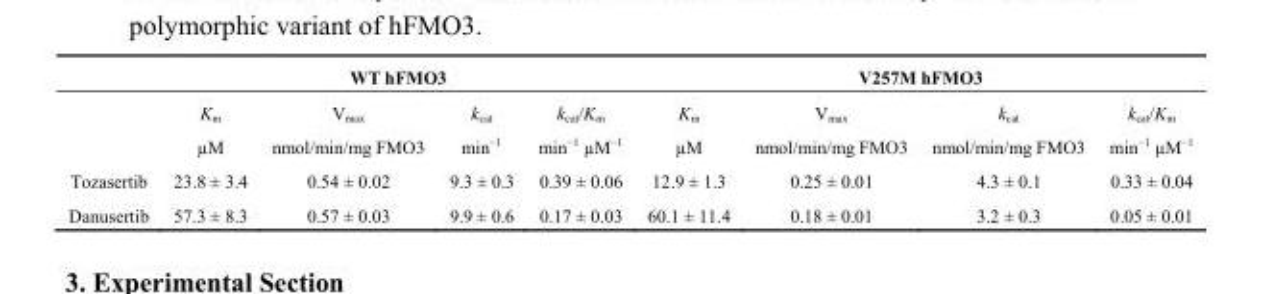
<table><thead><tr><td rowspan="3"></td><td colspan="4">WT hFMO3</td><td colspan="4">V257M hFMO3</td></tr><tr><td rowspan="2">K<sub>m</sub> µM</td><td rowspan="2">V<sub>max</sub> nmol/min/mg FMO3</td><td rowspan="2">k<sub>cat</sub> min<sup>−1</sup></td><td rowspan="2">k<sub>cat</sub>/K<sub>m</sub> min<sup>−1</sup> µM<sup>−1</sup></td><td rowspan="2">K<sub>m</sub> µM</td><td rowspan="2">V<sub>max</sub> nmol/min/mg FMO3</td><td rowspan="2">k<sub>cat</sub> nmol/min/mg FMO3</td><td rowspan="2">k<sub>cat</sub>/K<sub>m</sub> min<sup>−1</sup> µM<sup>−1</sup></td></tr><tr></tr></thead><tbody><tr><td>Tozasertib</td><td>23.8 ± 3.4</td><td>0.54 ± 0.02</td><td>9.3 ± 0.3</td><td>0.39 ± 0.06</td><td>12.9 ± 1.3</td><td>0.25 ± 0.01</td><td>4.3 ± 0.1</td><td>0.33 ± 0.04</td></tr><tr><td>Danusertib</td><td>57.3 ± 8.3</td><td>0.57 ± 0.03</td><td>9.9 ± 0.6</td><td>0.17 ± 0.03</td><td>60.1 ± 11.4</td><td>0.18 ± 0.01</td><td>3.2 ± 0.3</td><td>0.05 ± 0.01</td></tr></tbody></table>